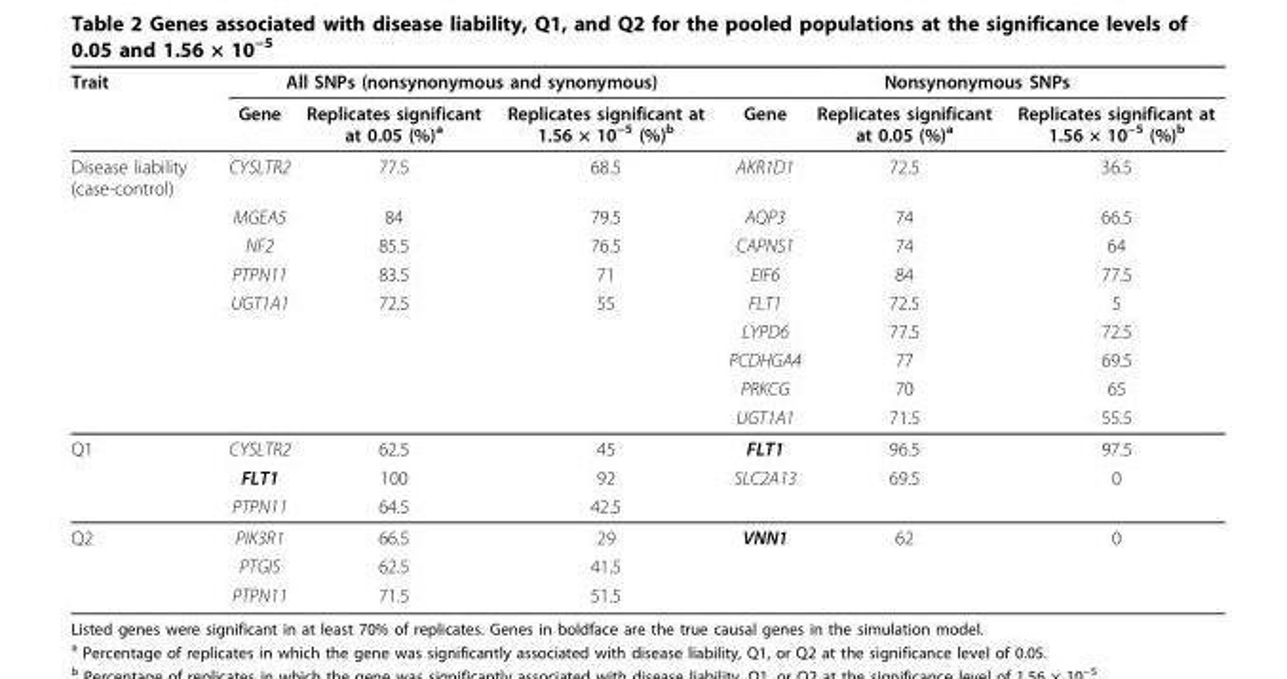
<table><thead><tr><td rowspan="2">Trait</td><td colspan="3">All SNPs (nonsynonymous and synonymous)</td><td colspan="3">Nonsynonymous SNPs</td></tr><tr><td>Gene</td><td>Replicates significant at 0.05 (%)<sup>a</sup></td><td>Replicates significant at 1.56 × 10<sup>−5</sup> (%)<sup>b</sup></td><td>Gene</td><td>Replicates significant at 0.05 (%)<sup>a</sup></td><td>Replicates significant at 1.56 × 10<sup>−5</sup> (%)<sup>b</sup></td></tr></thead><tbody><tr><td rowspan="9">Disease liability (case-control)</td><td>CYSLTR2</td><td>77.5</td><td>68.5</td><td>AKR1D1</td><td>72.5</td><td>36.5</td></tr><tr><td>MGEA5</td><td>84</td><td>79.5</td><td>AQP3</td><td>74</td><td>66.5</td></tr><tr><td>NF2</td><td>85.5</td><td>76.5</td><td>CAPNS1</td><td>74</td><td>64</td></tr><tr><td>PTPN11</td><td>83.5</td><td>71</td><td>EIF6</td><td>84</td><td>77.5</td></tr><tr><td>UGT1A1</td><td>72.5</td><td>55</td><td>FLT1</td><td>72.5</td><td>5</td></tr><tr><td></td><td></td><td></td><td>LYPD6</td><td>77.5</td><td>72.5</td></tr><tr><td></td><td></td><td></td><td>PCDHGA4</td><td>77</td><td>69.5</td></tr><tr><td></td><td></td><td></td><td>PRKCG</td><td>70</td><td>65</td></tr><tr><td></td><td></td><td></td><td>UGT1A1</td><td>71.5</td><td>55.5</td></tr><tr><td rowspan="3">Q1</td><td>CYSLTR2</td><td>62.5</td><td>45</td><td>FLT1</td><td>96.5</td><td>97.5</td></tr><tr><td>FLT1</td><td>100</td><td>92</td><td>SLC2A13</td><td>69.5</td><td>0</td></tr><tr><td>PTPN11</td><td>64.5</td><td>42.5</td><td></td><td></td><td></td></tr><tr><td rowspan="3">Q2</td><td>PIK3R1</td><td>66.5</td><td>29</td><td>VNN1</td><td>62</td><td>0</td></tr><tr><td>PTGIS</td><td>62.5</td><td>41.5</td><td></td><td></td><td></td></tr><tr><td>PTPN11</td><td>71.5</td><td>51.5</td><td></td><td></td><td></td></tr></tbody></table>